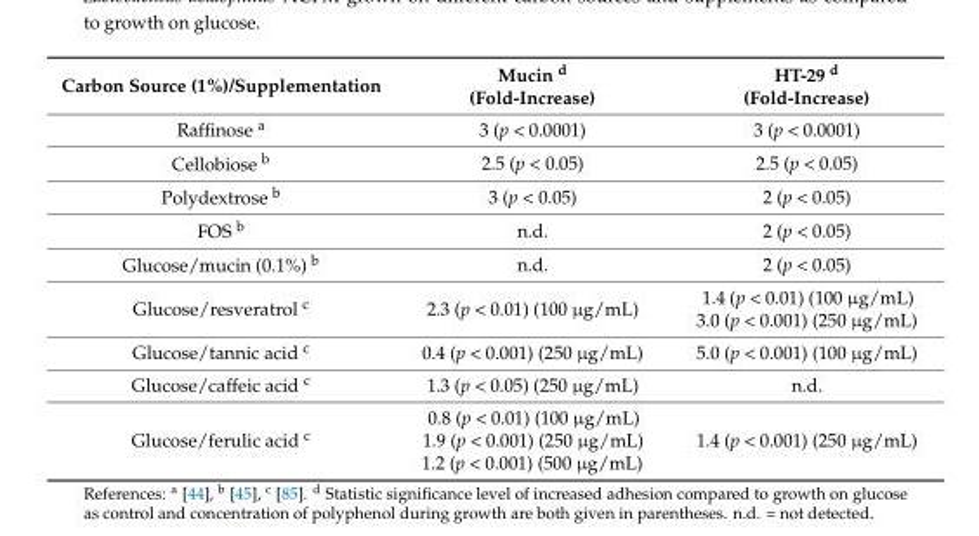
<table><thead><tr><td>Carbon Source (1%)/Supplementation</td><td>Mucin <sup>d</sup> (Fold-Increase)</td><td>HT-29 <sup>d</sup> (Fold-Increase)</td></tr></thead><tbody><tr><td>Raffinose <sup>a</sup></td><td>3 (p &lt; 0.0001)</td><td>3 (p &lt; 0.0001)</td></tr><tr><td>Cellobiose <sup>b</sup></td><td>2.5 (p &lt; 0.05)</td><td>2.5 (p &lt; 0.05)</td></tr><tr><td>Polydextrose <sup>b</sup></td><td>3 (p &lt; 0.05)</td><td>2 (p &lt; 0.05)</td></tr><tr><td>FOS <sup>b</sup></td><td>n.d.</td><td>2 (p &lt; 0.05)</td></tr><tr><td>Glucose/mucin (0.1%) <sup>b</sup></td><td>n.d.</td><td>2 (p &lt; 0.05)</td></tr><tr><td>Glucose/resveratrol <sup>c</sup></td><td>2.3 (p &lt; 0.01) (100 µg/mL)</td><td>1.4 (p &lt; 0.01) (100 µg/mL) 3.0 (p &lt; 0.001) (250 µg/mL)</td></tr><tr><td>Glucose/tannic acid <sup>c</sup></td><td>0.4 (p &lt; 0.001) (250 µg/mL)</td><td>5.0 (p &lt; 0.001) (100 µg/mL)</td></tr><tr><td>Glucose/caffeic acid <sup>c</sup></td><td>1.3 (p &lt; 0.05) (250 µg/mL)</td><td>n.d.</td></tr><tr><td>Glucose/ferulic acid <sup>c</sup></td><td>0.8 (p &lt; 0.01) (100 µg/mL) 1.9 (p &lt; 0.001) (250 µg/mL) 1.2 (p &lt; 0.001) (500 µg/mL)</td><td>1.4 (p &lt; 0.001) (250 µg/mL)</td></tr></tbody></table>